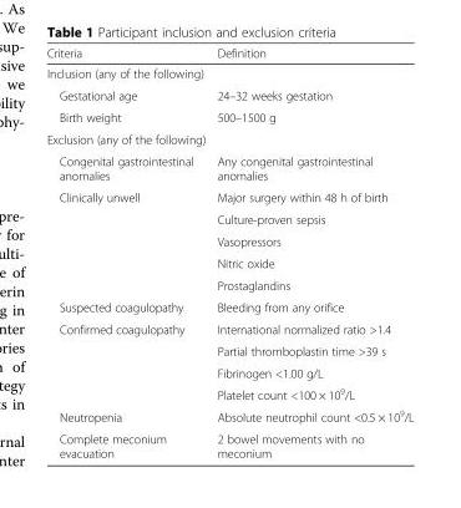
<table><thead><tr><td>Criteria</td><td>Definition</td></tr></thead><tbody><tr><td colspan="2">Inclusion (any of the following)</td></tr><tr><td>Gestational age</td><td>24–32 weeks gestation</td></tr><tr><td>Birth weight</td><td>500–1500 g</td></tr><tr><td colspan="2">Exclusion (any of the following)</td></tr><tr><td>Congenital gastrointestinal anomalies</td><td>Any congenital gastrointestinal anomalies</td></tr><tr><td rowspan="5">Clinically unwell</td><td>Major surgery within 48 h of birth</td></tr><tr><td>Culture-proven sepsis</td></tr><tr><td>Vasopressors</td></tr><tr><td>Nitric oxide</td></tr><tr><td>Prostaglandins</td></tr><tr><td>Suspected coagulopathy</td><td>Bleeding from any orifice</td></tr><tr><td rowspan="4">Confirmed coagulopathy</td><td>International normalized ratio &gt;1.4</td></tr><tr><td>Partial thromboplastin time &gt;39 s</td></tr><tr><td>Fibrinogen &lt;1.00 g/L</td></tr><tr><td>Platelet count &lt;100 × 10<sup>9</sup>/L</td></tr><tr><td>Neutropenia</td><td>Absolute neutrophil count &lt;0.5 × 10<sup>9</sup>/L</td></tr><tr><td>Complete meconium evacuation</td><td>2 bowel movements with no meconium</td></tr></tbody></table>